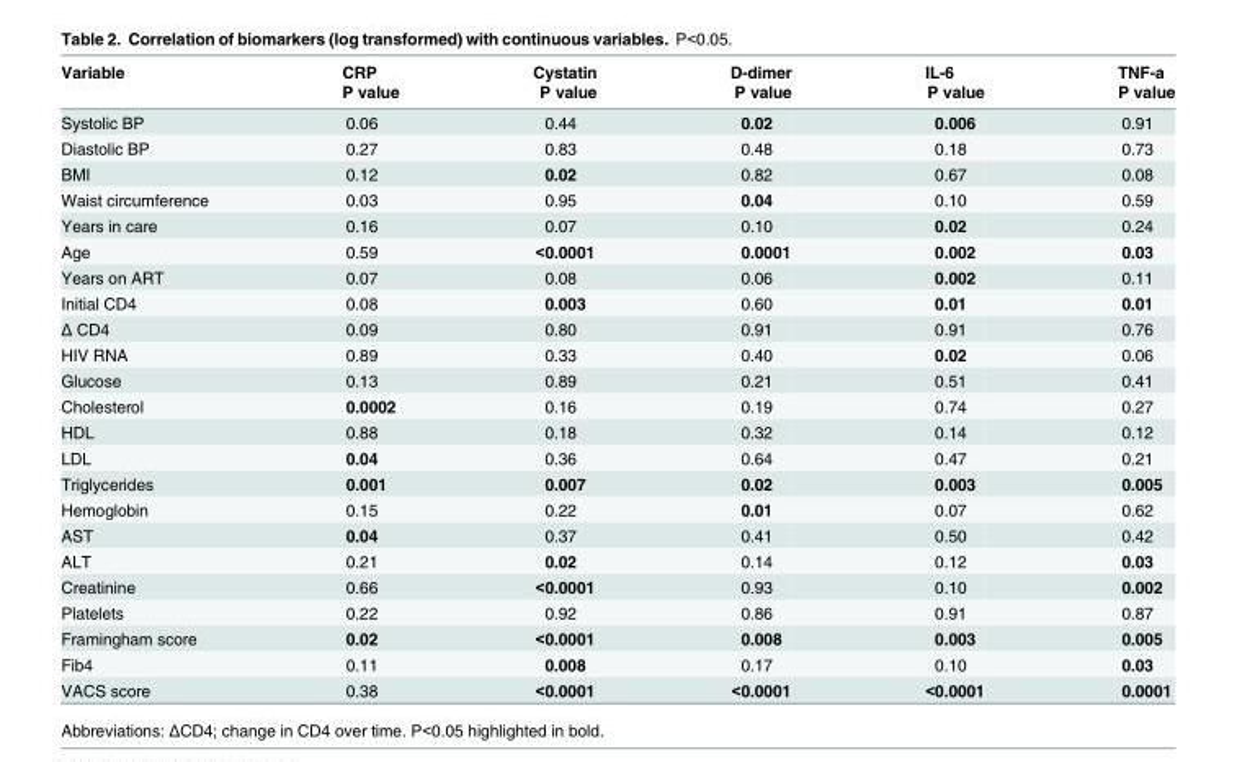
<table><thead><tr><td rowspan="2">Variable</td><td rowspan="2">CRP P value</td><td rowspan="2">Cystatin P value</td><td rowspan="2">D-dimer P value</td><td rowspan="2">IL-6 P value</td><td rowspan="2">TNF-a P value</td></tr><tr></tr></thead><tbody><tr><td>Systolic BP</td><td>0.06</td><td>0.44</td><td>0.02</td><td>0.006</td><td>0.91</td></tr><tr><td>Diastolic BP</td><td>0.27</td><td>0.83</td><td>0.48</td><td>0.18</td><td>0.73</td></tr><tr><td>BMI</td><td>0.12</td><td>0.02</td><td>0.82</td><td>0.67</td><td>0.08</td></tr><tr><td>Waist circumference</td><td>0.03</td><td>0.95</td><td>0.04</td><td>0.10</td><td>0.59</td></tr><tr><td>Years in care</td><td>0.16</td><td>0.07</td><td>0.10</td><td>0.02</td><td>0.24</td></tr><tr><td>Age</td><td>0.59</td><td>&lt;0.0001</td><td>0.0001</td><td>0.002</td><td>0.03</td></tr><tr><td>Years on ART</td><td>0.07</td><td>0.08</td><td>0.06</td><td>0.002</td><td>0.11</td></tr><tr><td>Initial CD4</td><td>0.08</td><td>0.003</td><td>0.60</td><td>0.01</td><td>0.01</td></tr><tr><td>Δ CD4</td><td>0.09</td><td>0.80</td><td>0.91</td><td>0.91</td><td>0.76</td></tr><tr><td>HIV RNA</td><td>0.89</td><td>0.33</td><td>0.40</td><td>0.02</td><td>0.06</td></tr><tr><td>Glucose</td><td>0.13</td><td>0.89</td><td>0.21</td><td>0.51</td><td>0.41</td></tr><tr><td>Cholesterol</td><td>0.0002</td><td>0.16</td><td>0.19</td><td>0.74</td><td>0.27</td></tr><tr><td>HDL</td><td>0.88</td><td>0.18</td><td>0.32</td><td>0.14</td><td>0.12</td></tr><tr><td>LDL</td><td>0.04</td><td>0.36</td><td>0.64</td><td>0.47</td><td>0.21</td></tr><tr><td>Triglycerides</td><td>0.001</td><td>0.007</td><td>0.02</td><td>0.003</td><td>0.005</td></tr><tr><td>Hemoglobin</td><td>0.15</td><td>0.22</td><td>0.01</td><td>0.07</td><td>0.62</td></tr><tr><td>AST</td><td>0.04</td><td>0.37</td><td>0.41</td><td>0.50</td><td>0.42</td></tr><tr><td>ALT</td><td>0.21</td><td>0.02</td><td>0.14</td><td>0.12</td><td>0.03</td></tr><tr><td>Creatinine</td><td>0.66</td><td>&lt;0.0001</td><td>0.93</td><td>0.10</td><td>0.002</td></tr><tr><td>Platelets</td><td>0.22</td><td>0.92</td><td>0.86</td><td>0.91</td><td>0.87</td></tr><tr><td>Framingham score</td><td>0.02</td><td>&lt;0.0001</td><td>0.008</td><td>0.003</td><td>0.005</td></tr><tr><td>Fib4</td><td>0.11</td><td>0.008</td><td>0.17</td><td>0.10</td><td>0.03</td></tr><tr><td>VACS score</td><td>0.38</td><td>&lt;0.0001</td><td>&lt;0.0001</td><td>&lt;0.0001</td><td>0.0001</td></tr></tbody></table>